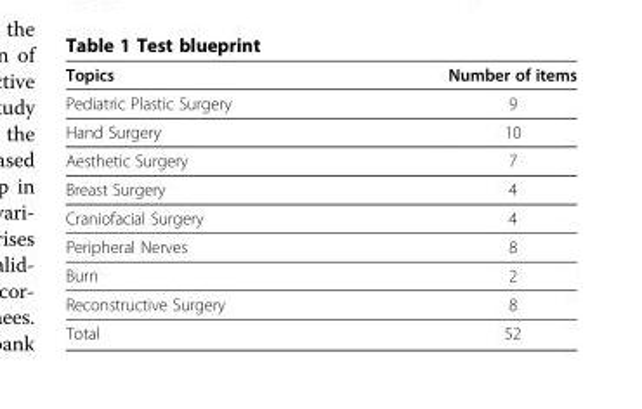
<table><thead><tr><td>Topics</td><td>Number of items</td></tr></thead><tbody><tr><td>Pediatric Plastic Surgery</td><td>9</td></tr><tr><td>Hand Surgery</td><td>10</td></tr><tr><td>Aesthetic Surgery</td><td>7</td></tr><tr><td>Breast Surgery</td><td>4</td></tr><tr><td>Craniofacial Surgery</td><td>4</td></tr><tr><td>Peripheral Nerves</td><td>8</td></tr><tr><td>Burn</td><td>2</td></tr><tr><td>Reconstructive Surgery</td><td>8</td></tr><tr><td>Total</td><td>52</td></tr></tbody></table>